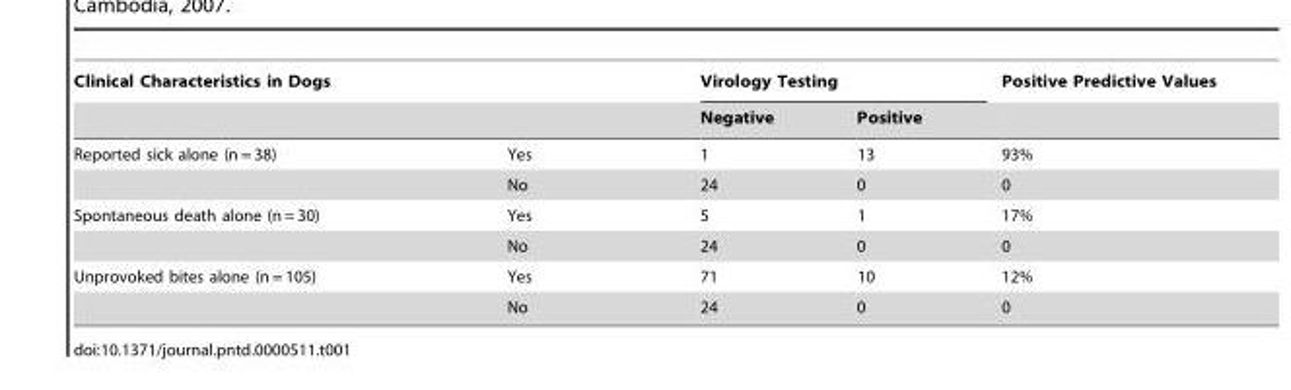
<table><thead><tr><td colspan="2">Clinical Characteristics in Dogs</td><td colspan="2">Virology Testing</td><td rowspan="2">Positive Predictive Values</td></tr><tr><td></td><td></td><td>Negative</td><td>Positive</td></tr></thead><tbody><tr><td rowspan="2">Reported sick alone (n = 38)</td><td>Yes</td><td>1</td><td>13</td><td>93%</td></tr><tr><td>No</td><td>24</td><td>0</td><td>0</td></tr><tr><td rowspan="2">Spontaneous death alone (n = 30)</td><td>Yes</td><td>5</td><td>1</td><td>17%</td></tr><tr><td>No</td><td>24</td><td>0</td><td>0</td></tr><tr><td rowspan="2">Unprovoked bites alone (n = 105)</td><td>Yes</td><td>71</td><td>10</td><td>12%</td></tr><tr><td>No</td><td>24</td><td>0</td><td>0</td></tr></tbody></table>